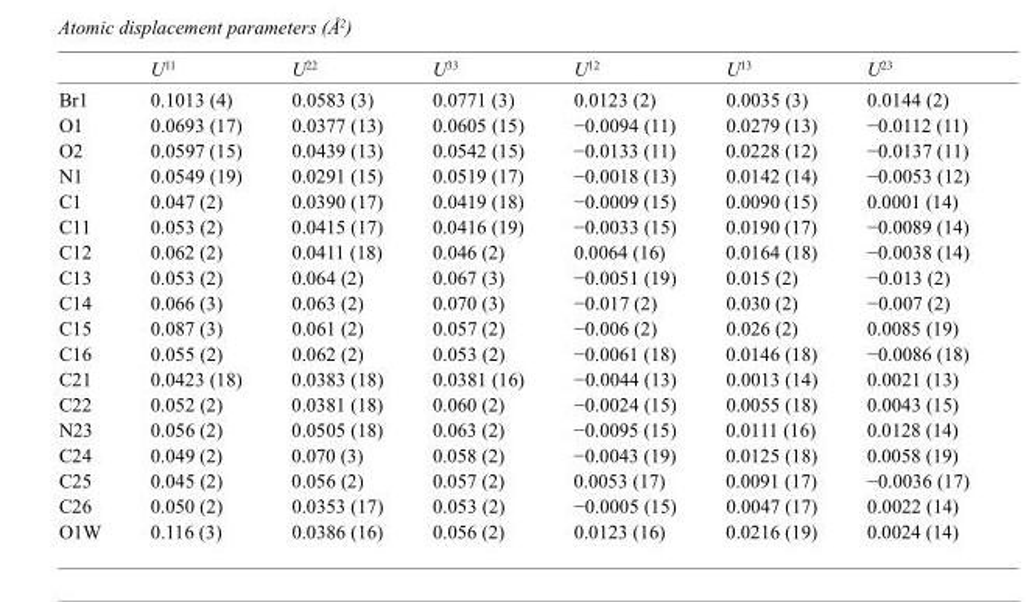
<table><thead><tr><td></td><td>U<sup>11</sup></td><td>U<sup>22</sup></td><td>U<sup>33</sup></td><td>U<sup>12</sup></td><td>U<sup>13</sup></td><td>U<sup>23</sup></td></tr></thead><tbody><tr><td>Br1</td><td>0.1013 (4)</td><td>0.0583 (3)</td><td>0.0771 (3)</td><td>0.0123 (2)</td><td>0.0035 (3)</td><td>0.0144 (2)</td></tr><tr><td>O1</td><td>0.0693 (17)</td><td>0.0377 (13)</td><td>0.0605 (15)</td><td>−0.0094 (11)</td><td>0.0279 (13)</td><td>−0.0112 (11)</td></tr><tr><td>O2</td><td>0.0597 (15)</td><td>0.0439 (13)</td><td>0.0542 (15)</td><td>−0.0133 (11)</td><td>0.0228 (12)</td><td>−0.0137 (11)</td></tr><tr><td>N1</td><td>0.0549 (19)</td><td>0.0291 (15)</td><td>0.0519 (17)</td><td>−0.0018 (13)</td><td>0.0142 (14)</td><td>−0.0053 (12)</td></tr><tr><td>C1</td><td>0.047 (2)</td><td>0.0390 (17)</td><td>0.0419 (18)</td><td>−0.0009 (15)</td><td>0.0090 (15)</td><td>0.0001 (14)</td></tr><tr><td>C11</td><td>0.053 (2)</td><td>0.0415 (17)</td><td>0.0416 (19)</td><td>−0.0033 (15)</td><td>0.0190 (17)</td><td>−0.0089 (14)</td></tr><tr><td>C12</td><td>0.062 (2)</td><td>0.0411 (18)</td><td>0.046 (2)</td><td>0.0064 (16)</td><td>0.0164 (18)</td><td>−0.0038 (14)</td></tr><tr><td>C13</td><td>0.053 (2)</td><td>0.064 (2)</td><td>0.067 (3)</td><td>−0.0051 (19)</td><td>0.015 (2)</td><td>−0.013 (2)</td></tr><tr><td>C14</td><td>0.066 (3)</td><td>0.063 (2)</td><td>0.070 (3)</td><td>−0.017 (2)</td><td>0.030 (2)</td><td>−0.007 (2)</td></tr><tr><td>C15</td><td>0.087 (3)</td><td>0.061 (2)</td><td>0.057 (2)</td><td>−0.006 (2)</td><td>0.026 (2)</td><td>0.0085 (19)</td></tr><tr><td>C16</td><td>0.055 (2)</td><td>0.062 (2)</td><td>0.053 (2)</td><td>−0.0061 (18)</td><td>0.0146 (18)</td><td>−0.0086 (18)</td></tr><tr><td>C21</td><td>0.0423 (18)</td><td>0.0383 (18)</td><td>0.0381 (16)</td><td>−0.0044 (13)</td><td>0.0013 (14)</td><td>0.0021 (13)</td></tr><tr><td>C22</td><td>0.052 (2)</td><td>0.0381 (18)</td><td>0.060 (2)</td><td>−0.0024 (15)</td><td>0.0055 (18)</td><td>0.0043 (15)</td></tr><tr><td>N23</td><td>0.056 (2)</td><td>0.0505 (18)</td><td>0.063 (2)</td><td>−0.0095 (15)</td><td>0.0111 (16)</td><td>0.0128 (14)</td></tr><tr><td>C24</td><td>0.049 (2)</td><td>0.070 (3)</td><td>0.058 (2)</td><td>−0.0043 (19)</td><td>0.0125 (18)</td><td>0.0058 (19)</td></tr><tr><td>C25</td><td>0.045 (2)</td><td>0.056 (2)</td><td>0.057 (2)</td><td>0.0053 (17)</td><td>0.0091 (17)</td><td>−0.0036 (17)</td></tr><tr><td>C26</td><td>0.050 (2)</td><td>0.0353 (17)</td><td>0.053 (2)</td><td>−0.0005 (15)</td><td>0.0047 (17)</td><td>0.0022 (14)</td></tr><tr><td>O1W</td><td>0.116 (3)</td><td>0.0386 (16)</td><td>0.056 (2)</td><td>0.0123 (16)</td><td>0.0216 (19)</td><td>0.0024 (14)</td></tr></tbody></table>